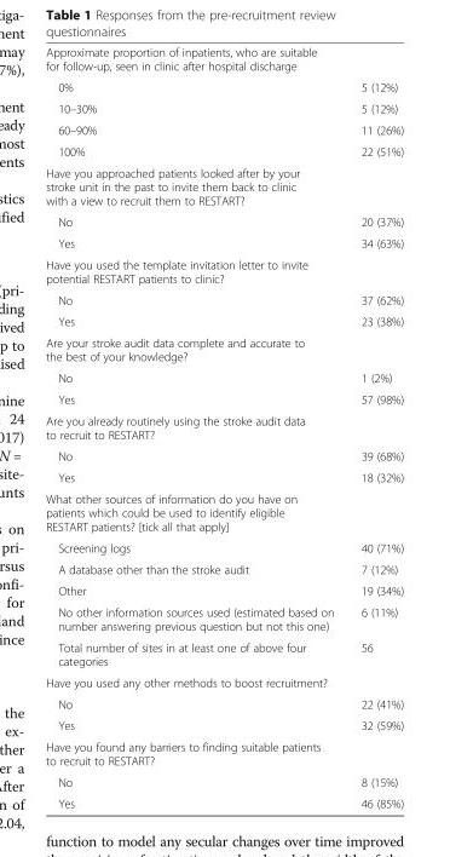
<table><tbody><tr><td colspan="2">Approximate proportion of inpatients, who are suitable for follow-up, seen in clinic after hospital discharge</td></tr><tr><td>0%</td><td>5 (12%)</td></tr><tr><td>10–30%</td><td>5 (12%)</td></tr><tr><td>60–90%</td><td>11 (26%)</td></tr><tr><td>100%</td><td>22 (51%)</td></tr><tr><td colspan="2">Have you approached patients looked after by your stroke unit in the past to invite them back to clinic with a view to recruit them to RESTART?</td></tr><tr><td>No</td><td>20 (37%)</td></tr><tr><td>Yes</td><td>34 (63%)</td></tr><tr><td colspan="2">Have you used the template invitation letter to invite potential RESTART patients to clinic?</td></tr><tr><td>No</td><td>37 (62%)</td></tr><tr><td>Yes</td><td>23 (38%)</td></tr><tr><td colspan="2">Are your stroke audit data complete and accurate to the best of your knowledge?</td></tr><tr><td>No</td><td>1 (2%)</td></tr><tr><td>Yes</td><td>57 (98%)</td></tr><tr><td colspan="2">Are you already routinely using the stroke audit data to recruit to RESTART?</td></tr><tr><td>No</td><td>39 (68%)</td></tr><tr><td>Yes</td><td>18 (32%)</td></tr><tr><td colspan="2">What other sources of information do you have on patients which could be used to identify eligible RESTART patients? [tick all that apply]</td></tr><tr><td>Screening logs</td><td>40 (71%)</td></tr><tr><td>A database other than the stroke audit</td><td>7 (12%)</td></tr><tr><td>Other</td><td>19 (34%)</td></tr><tr><td>No other information sources used (estimated based on number answering previous question but not this one)</td><td>6 (11%)</td></tr><tr><td>Total number of sites in at least one of above four categories</td><td>56</td></tr><tr><td colspan="2">Have you used any other methods to boost recruitment?</td></tr><tr><td>No</td><td>22 (41%)</td></tr><tr><td>Yes</td><td>32 (59%)</td></tr><tr><td colspan="2">Have you found any barriers to finding suitable patients to recruit to RESTART?</td></tr><tr><td>No</td><td>8 (15%)</td></tr><tr><td>Yes</td><td>46 (85%)</td></tr></tbody></table>